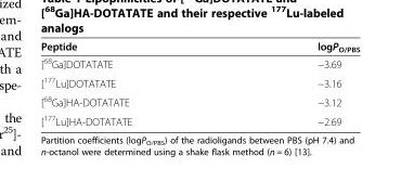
<table><thead><tr><td>Peptide</td><td>logP<sub>O/PBS</sub></td></tr></thead><tbody><tr><td>[<sup>68</sup>Ga]DOTATATE</td><td>−3.69</td></tr><tr><td>[<sup>177</sup>Lu]DOTATATE</td><td>−3.16</td></tr><tr><td>[<sup>68</sup>Ga]HA-DOTATATE</td><td>−3.12</td></tr><tr><td>[<sup>177</sup>Lu]HA-DOTATATE</td><td>−2.69</td></tr></tbody></table>